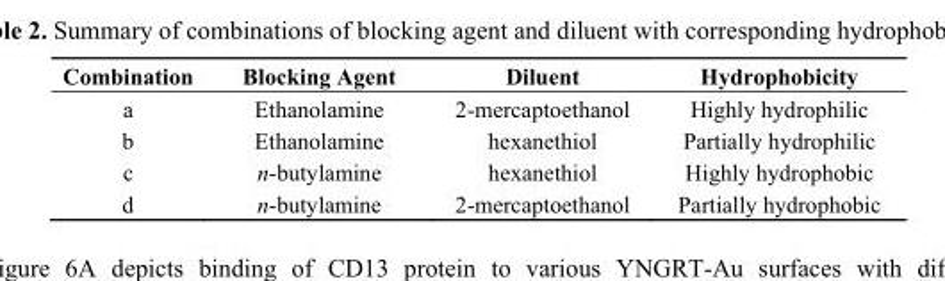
<table><thead><tr><td>Combination</td><td>Blocking Agent</td><td>Diluent</td><td>Hydrophobicity</td></tr></thead><tbody><tr><td>a</td><td>Ethanolamine</td><td>2-mercaptoethanol</td><td>Highly hydrophilic</td></tr><tr><td>b</td><td>Ethanolamine</td><td>hexanethiol</td><td>Partially hydrophilic</td></tr><tr><td>c</td><td>n-butylamine</td><td>hexanethiol</td><td>Highly hydrophobic</td></tr><tr><td>d</td><td>n-butylamine</td><td>2-mercaptoethanol</td><td>Partially hydrophobic</td></tr></tbody></table>